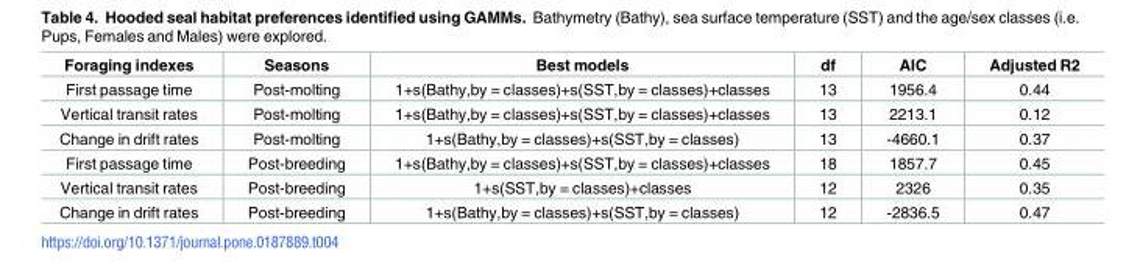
<table><thead><tr><td>Foraging indexes</td><td>Seasons</td><td>Best models</td><td>df</td><td>AIC</td><td>Adjusted R2</td></tr></thead><tbody><tr><td>First passage time</td><td>Post-molting</td><td>1+s(Bathy,by = classes)+s(SST,by = classes)+classes</td><td>13</td><td>1956.4</td><td>0.44</td></tr><tr><td>Vertical transit rates</td><td>Post-molting</td><td>1+s(Bathy,by = classes)+s(SST,by = classes)+classes</td><td>13</td><td>2213.1</td><td>0.12</td></tr><tr><td>Change in drift rates</td><td>Post-molting</td><td>1+s(Bathy,by = classes)+s(SST,by = classes)</td><td>13</td><td>-4660.1</td><td>0.37</td></tr><tr><td>First passage time</td><td>Post-breeding</td><td>1+s(Bathy,by = classes)+s(SST,by = classes)+classes</td><td>18</td><td>1857.7</td><td>0.45</td></tr><tr><td>Vertical transit rates</td><td>Post-breeding</td><td>1+s(SST,by = classes)+classes</td><td>12</td><td>2326</td><td>0.35</td></tr><tr><td>Change in drift rates</td><td>Post-breeding</td><td>1+s(Bathy,by = classes)+s(SST,by = classes)</td><td>12</td><td>-2836.5</td><td>0.47</td></tr></tbody></table>